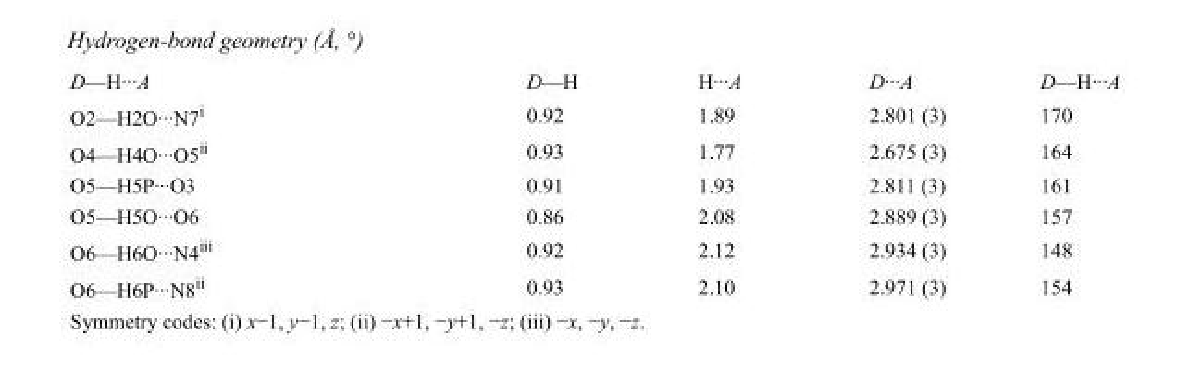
<table><tbody><tr><td>D—H···A</td><td>D—H</td><td>H···A</td><td>D···A</td><td>D—H···A</td></tr><tr><td>O2—H2O···N7<sup>i</sup></td><td>0.92</td><td>1.89</td><td>2.801 (3)</td><td>170</td></tr><tr><td>O4—H4O···O5<sup>ii</sup></td><td>0.93</td><td>1.77</td><td>2.675 (3)</td><td>164</td></tr><tr><td>O5—H5P···O3</td><td>0.91</td><td>1.93</td><td>2.811 (3)</td><td>161</td></tr><tr><td>O5—H5O···O6</td><td>0.86</td><td>2.08</td><td>2.889 (3)</td><td>157</td></tr><tr><td>O6—H6O···N4<sup>iii</sup></td><td>0.92</td><td>2.12</td><td>2.934 (3)</td><td>148</td></tr><tr><td>O6—H6P···N8<sup>ii</sup></td><td>0.93</td><td>2.10</td><td>2.971 (3)</td><td>154</td></tr></tbody></table>